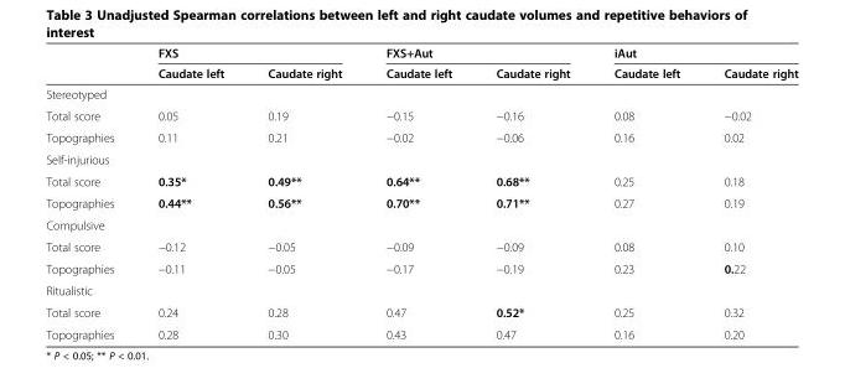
<table><thead><tr><td rowspan="2"></td><td colspan="2">FXS</td><td colspan="2">FXS+Aut</td><td colspan="2">iAut</td></tr><tr><td>Caudate left</td><td>Caudate right</td><td>Caudate left</td><td>Caudate right</td><td>Caudate left</td><td>Caudate right</td></tr></thead><tbody><tr><td colspan="7">Stereotyped</td></tr><tr><td>Total score</td><td>0.05</td><td>0.19</td><td>−0.15</td><td>−0.16</td><td>0.08</td><td>−0.02</td></tr><tr><td>Topographies</td><td>0.11</td><td>0.21</td><td>−0.02</td><td>−0.06</td><td>0.16</td><td>0.02</td></tr><tr><td colspan="7">Self-injurious</td></tr><tr><td>Total score</td><td>0.35*</td><td>0.49**</td><td>0.64**</td><td>0.68**</td><td>0.25</td><td>0.18</td></tr><tr><td>Topographies</td><td>0.44**</td><td>0.56**</td><td>0.70**</td><td>0.71**</td><td>0.27</td><td>0.19</td></tr><tr><td colspan="7">Compulsive</td></tr><tr><td>Total score</td><td>−0.12</td><td>−0.05</td><td>−0.09</td><td>−0.09</td><td>0.08</td><td>0.10</td></tr><tr><td>Topographies</td><td>−0.11</td><td>−0.05</td><td>−0.17</td><td>−0.19</td><td>0.23</td><td>0.22</td></tr><tr><td colspan="7">Ritualistic</td></tr><tr><td>Total score</td><td>0.24</td><td>0.28</td><td>0.47</td><td>0.52*</td><td>0.25</td><td>0.32</td></tr><tr><td>Topographies</td><td>0.28</td><td>0.30</td><td>0.43</td><td>0.47</td><td>0.16</td><td>0.20</td></tr></tbody></table>